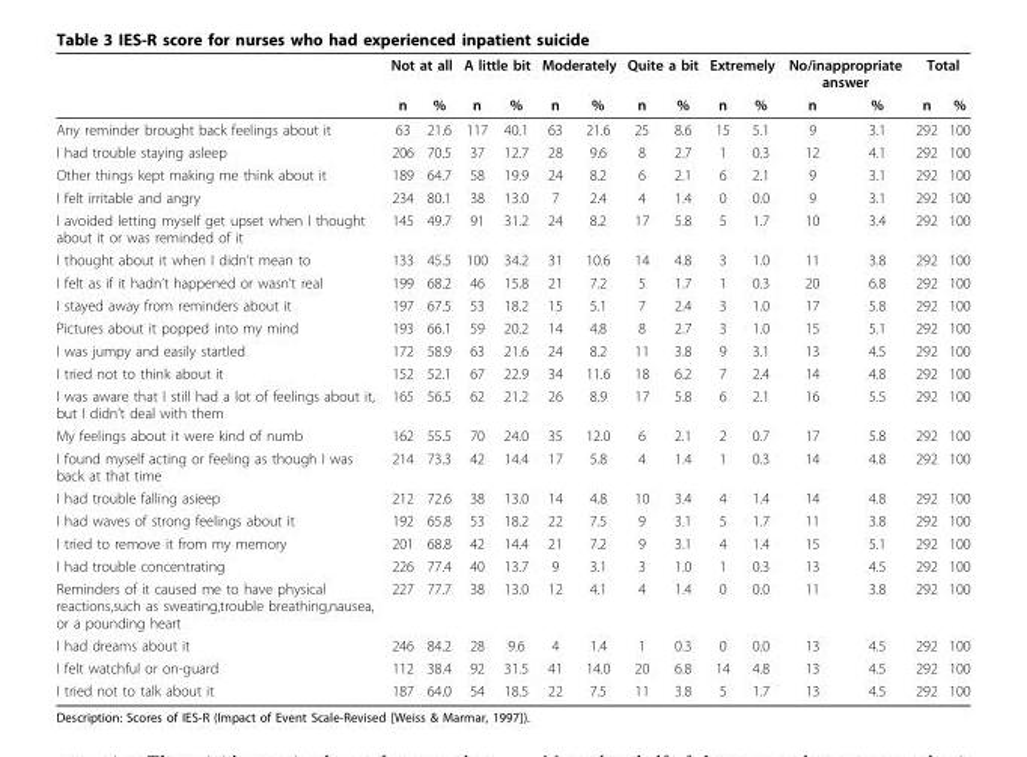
<table><thead><tr><td rowspan="2"></td><td colspan="2">Not at all</td><td colspan="2">A little bit</td><td colspan="2">Moderately</td><td colspan="2">Quite a bit</td><td colspan="2">Extremely</td><td colspan="2">No/inappropriate answer</td><td colspan="2">Total</td></tr><tr><td>n</td><td>%</td><td>n</td><td>%</td><td>n</td><td>%</td><td>n</td><td>%</td><td>n</td><td>%</td><td>n</td><td>%</td><td>n</td><td>%</td></tr></thead><tbody><tr><td>Any reminder brought back feelings about it</td><td>63</td><td>21.6</td><td>117</td><td>40.1</td><td>63</td><td>21.6</td><td>25</td><td>8.6</td><td>15</td><td>5.1</td><td>9</td><td>3.1</td><td>292</td><td>100</td></tr><tr><td>I had trouble staying asleep</td><td>206</td><td>70.5</td><td>37</td><td>12.7</td><td>28</td><td>9.6</td><td>8</td><td>2.7</td><td>1</td><td>0.3</td><td>12</td><td>4.1</td><td>292</td><td>100</td></tr><tr><td>Other things kept making me think about it</td><td>189</td><td>64.7</td><td>58</td><td>19.9</td><td>24</td><td>8.2</td><td>6</td><td>2.1</td><td>6</td><td>2.1</td><td>9</td><td>3.1</td><td>292</td><td>100</td></tr><tr><td>I felt irritable and angry</td><td>234</td><td>80.1</td><td>38</td><td>13.0</td><td>7</td><td>2.4</td><td>4</td><td>1.4</td><td>0</td><td>0.0</td><td>9</td><td>3.1</td><td>292</td><td>100</td></tr><tr><td>I avoided letting myself get upset when I thought about it or was reminded of it</td><td>145</td><td>49.7</td><td>91</td><td>31.2</td><td>24</td><td>8.2</td><td>17</td><td>5.8</td><td>5</td><td>1.7</td><td>10</td><td>3.4</td><td>292</td><td>100</td></tr><tr><td>I thought about it when I didn’t mean to</td><td>133</td><td>45.5</td><td>100</td><td>34.2</td><td>31</td><td>10.6</td><td>14</td><td>4.8</td><td>3</td><td>1.0</td><td>11</td><td>3.8</td><td>292</td><td>100</td></tr><tr><td>I felt as if it hadn’t happened or wasn’t real</td><td>199</td><td>68.2</td><td>46</td><td>15.8</td><td>21</td><td>7.2</td><td>5</td><td>1.7</td><td>1</td><td>0.3</td><td>20</td><td>6.8</td><td>292</td><td>100</td></tr><tr><td>I stayed away from reminders about it</td><td>197</td><td>67.5</td><td>53</td><td>18.2</td><td>15</td><td>5.1</td><td>7</td><td>2.4</td><td>3</td><td>1.0</td><td>17</td><td>5.8</td><td>292</td><td>100</td></tr><tr><td>Pictures about it popped into my mind</td><td>193</td><td>66.1</td><td>59</td><td>20.2</td><td>14</td><td>4.8</td><td>8</td><td>2.7</td><td>3</td><td>1.0</td><td>15</td><td>5.1</td><td>292</td><td>100</td></tr><tr><td>I was jumpy and easily startled</td><td>172</td><td>58.9</td><td>63</td><td>21.6</td><td>24</td><td>8.2</td><td>11</td><td>3.8</td><td>9</td><td>3.1</td><td>13</td><td>4.5</td><td>292</td><td>100</td></tr><tr><td>I tried not to think about it</td><td>152</td><td>52.1</td><td>67</td><td>22.9</td><td>34</td><td>11.6</td><td>18</td><td>6.2</td><td>7</td><td>2.4</td><td>14</td><td>4.8</td><td>292</td><td>100</td></tr><tr><td>I was aware that I still had a lot of feelings about it, but I didn’t deal with them</td><td>165</td><td>56.5</td><td>62</td><td>21.2</td><td>26</td><td>8.9</td><td>17</td><td>5.8</td><td>6</td><td>2.1</td><td>16</td><td>5.5</td><td>292</td><td>100</td></tr><tr><td>My feelings about it were kind of numb</td><td>162</td><td>55.5</td><td>70</td><td>24.0</td><td>35</td><td>12.0</td><td>6</td><td>2.1</td><td>2</td><td>0.7</td><td>17</td><td>5.8</td><td>292</td><td>100</td></tr><tr><td>I found myself acting or feeling as though I was back at that time</td><td>214</td><td>73.3</td><td>42</td><td>14.4</td><td>17</td><td>5.8</td><td>4</td><td>1.4</td><td>1</td><td>0.3</td><td>14</td><td>4.8</td><td>292</td><td>100</td></tr><tr><td>I had trouble falling asieep</td><td>212</td><td>72.6</td><td>38</td><td>13.0</td><td>14</td><td>4.8</td><td>10</td><td>3.4</td><td>4</td><td>1.4</td><td>14</td><td>4.8</td><td>292</td><td>100</td></tr><tr><td>I had waves of strong feelings about it</td><td>192</td><td>65.8</td><td>53</td><td>18.2</td><td>22</td><td>7.5</td><td>9</td><td>3.1</td><td>5</td><td>1.7</td><td>11</td><td>3.8</td><td>292</td><td>100</td></tr><tr><td>I tried to remove it from my memory</td><td>201</td><td>68.8</td><td>42</td><td>14.4</td><td>21</td><td>7.2</td><td>9</td><td>3.1</td><td>4</td><td>1.4</td><td>15</td><td>5.1</td><td>292</td><td>100</td></tr><tr><td>I had trouble concentrating</td><td>226</td><td>77.4</td><td>40</td><td>13.7</td><td>9</td><td>3.1</td><td>3</td><td>1.0</td><td>1</td><td>0.3</td><td>13</td><td>4.5</td><td>292</td><td>100</td></tr><tr><td>Reminders of it caused me to have physical reactions,such as sweating,trouble breathing,nausea, or a pounding heart</td><td>227</td><td>77.7</td><td>38</td><td>13.0</td><td>12</td><td>4.1</td><td>4</td><td>1.4</td><td>0</td><td>0.0</td><td>11</td><td>3.8</td><td>292</td><td>100</td></tr><tr><td>I had dreams about it</td><td>246</td><td>84.2</td><td>28</td><td>9.6</td><td>4</td><td>1.4</td><td>1</td><td>0.3</td><td>0</td><td>0.0</td><td>13</td><td>4.5</td><td>292</td><td>100</td></tr><tr><td>I felt watchful or on-guard</td><td>112</td><td>38.4</td><td>92</td><td>31.5</td><td>41</td><td>14.0</td><td>20</td><td>6.8</td><td>14</td><td>4.8</td><td>13</td><td>4.5</td><td>292</td><td>100</td></tr><tr><td>I tried not to talk about it</td><td>187</td><td>64.0</td><td>54</td><td>18.5</td><td>22</td><td>7.5</td><td>11</td><td>3.8</td><td>5</td><td>1.7</td><td>13</td><td>4.5</td><td>292</td><td>100</td></tr></tbody></table>